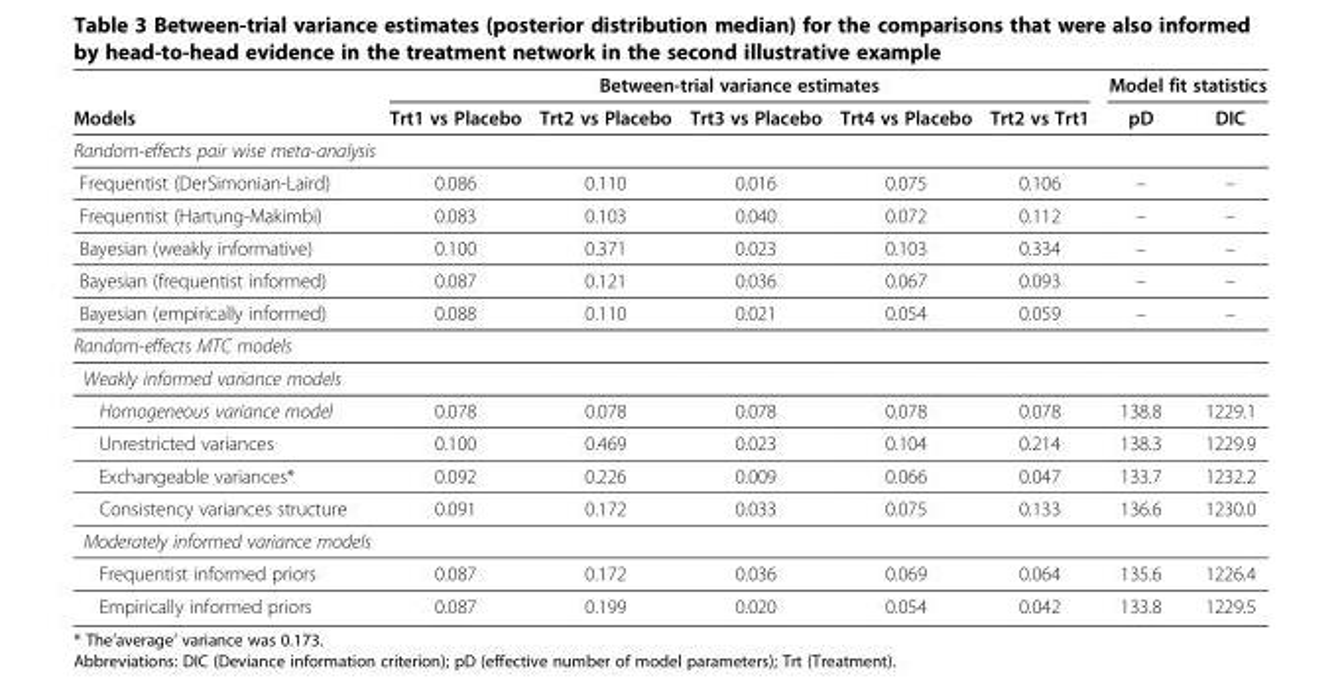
<table><thead><tr><td rowspan="2">Models</td><td colspan="5">Between-trial variance estimates</td><td colspan="2">Model fit statistics</td></tr><tr><td>Trt1 vs Placebo</td><td>Trt2 vs Placebo</td><td>Trt3 vs Placebo</td><td>Trt4 vs Placebo</td><td>Trt2 vs Trt1</td><td>pD</td><td>DIC</td></tr></thead><tbody><tr><td colspan="8">Random-effects pair wise meta-analysis</td></tr><tr><td>Frequentist (DerSimonian-Laird)</td><td>0.086</td><td>0.110</td><td>0.016</td><td>0.075</td><td>0.106</td><td>–</td><td>–</td></tr><tr><td>Frequentist (Hartung-Makimbi)</td><td>0.083</td><td>0.103</td><td>0.040</td><td>0.072</td><td>0.112</td><td>–</td><td>–</td></tr><tr><td>Bayesian (weakly informative)</td><td>0.100</td><td>0.371</td><td>0.023</td><td>0.103</td><td>0.334</td><td>–</td><td>–</td></tr><tr><td>Bayesian (frequentist informed)</td><td>0.087</td><td>0.121</td><td>0.036</td><td>0.067</td><td>0.093</td><td>–</td><td>–</td></tr><tr><td>Bayesian (empirically informed)</td><td>0.088</td><td>0.110</td><td>0.021</td><td>0.054</td><td>0.059</td><td>–</td><td>–</td></tr><tr><td colspan="8">Random-effects MTC models</td></tr><tr><td colspan="8">Weakly informed variance models</td></tr><tr><td>Homogeneous variance model</td><td>0.078</td><td>0.078</td><td>0.078</td><td>0.078</td><td>0.078</td><td>138.8</td><td>1229.1</td></tr><tr><td>Unrestricted variances</td><td>0.100</td><td>0.469</td><td>0.023</td><td>0.104</td><td>0.214</td><td>138.3</td><td>1229.9</td></tr><tr><td>Exchangeable variances*</td><td>0.092</td><td>0.226</td><td>0.009</td><td>0.066</td><td>0.047</td><td>133.7</td><td>1232.2</td></tr><tr><td>Consistency variances structure</td><td>0.091</td><td>0.172</td><td>0.033</td><td>0.075</td><td>0.133</td><td>136.6</td><td>1230.0</td></tr><tr><td colspan="8">Moderately informed variance models</td></tr><tr><td>Frequentist informed priors</td><td>0.087</td><td>0.172</td><td>0.036</td><td>0.069</td><td>0.064</td><td>135.6</td><td>1226.4</td></tr><tr><td>Empirically informed priors</td><td>0.087</td><td>0.199</td><td>0.020</td><td>0.054</td><td>0.042</td><td>133.8</td><td>1229.5</td></tr></tbody></table>